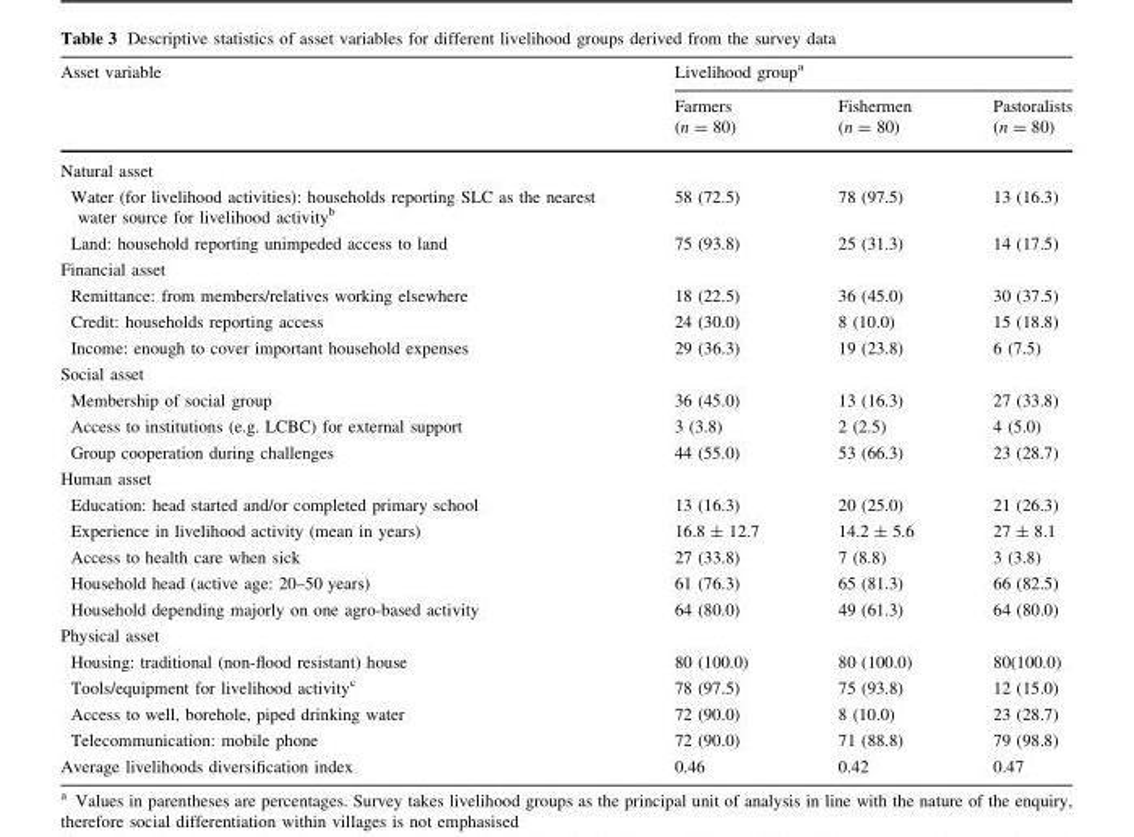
<table><thead><tr><td rowspan="2">Asset variable</td><td colspan="3">Livelihood group<sup>a</sup></td></tr><tr><td>Farmers (n = 80)</td><td>Fishermen (n = 80)</td><td>Pastoralists (n = 80)</td></tr></thead><tbody><tr><td colspan="4">Natural asset</td></tr><tr><td>Water (for livelihood activities): households reporting SLC as the nearest water source for livelihood activity<sup>b</sup></td><td>58 (72.5)</td><td>78 (97.5)</td><td>13 (16.3)</td></tr><tr><td>Land: household reporting unimpeded access to land</td><td>75 (93.8)</td><td>25 (31.3)</td><td>14 (17.5)</td></tr><tr><td colspan="4">Financial asset</td></tr><tr><td>Remittance: from members/relatives working elsewhere</td><td>18 (22.5)</td><td>36 (45.0)</td><td>30 (37.5)</td></tr><tr><td>Credit: households reporting access</td><td>24 (30.0)</td><td>8 (10.0)</td><td>15 (18.8)</td></tr><tr><td>Income: enough to cover important household expenses</td><td>29 (36.3)</td><td>19 (23.8)</td><td>6 (7.5)</td></tr><tr><td colspan="4">Social asset</td></tr><tr><td>Membership of social group</td><td>36 (45.0)</td><td>13 (16.3)</td><td>27 (33.8)</td></tr><tr><td>Access to institutions (e.g. LCBC) for external support</td><td>3 (3.8)</td><td>2 (2.5)</td><td>4 (5.0)</td></tr><tr><td>Group cooperation during challenges</td><td>44 (55.0)</td><td>53 (66.3)</td><td>23 (28.7)</td></tr><tr><td colspan="4">Human asset</td></tr><tr><td>Education: head started and/or completed primary school</td><td>13 (16.3)</td><td>20 (25.0)</td><td>21 (26.3)</td></tr><tr><td>Experience in livelihood activity (mean in years)</td><td>16.8 ± 12.7</td><td>14.2 ± 5.6</td><td>27 ± 8.1</td></tr><tr><td>Access to health care when sick</td><td>27 (33.8)</td><td>7 (8.8)</td><td>3 (3.8)</td></tr><tr><td>Household head (active age: 20–50 years)</td><td>61 (76.3)</td><td>65 (81.3)</td><td>66 (82.5)</td></tr><tr><td>Household depending majorly on one agro-based activity</td><td>64 (80.0)</td><td>49 (61.3)</td><td>64 (80.0)</td></tr><tr><td colspan="4">Physical asset</td></tr><tr><td>Housing: traditional (non-flood resistant) house</td><td>80 (100.0)</td><td>80 (100.0)</td><td>80(100.0)</td></tr><tr><td>Tools/equipment for livelihood activity<sup>c</sup></td><td>78 (97.5)</td><td>75 (93.8)</td><td>12 (15.0)</td></tr><tr><td>Access to well, borehole, piped drinking water</td><td>72 (90.0)</td><td>8 (10.0)</td><td>23 (28.7)</td></tr><tr><td>Telecommunication: mobile phone</td><td>72 (90.0)</td><td>71 (88.8)</td><td>79 (98.8)</td></tr><tr><td>Average livelihoods diversification index</td><td>0.46</td><td>0.42</td><td>0.47</td></tr></tbody></table>